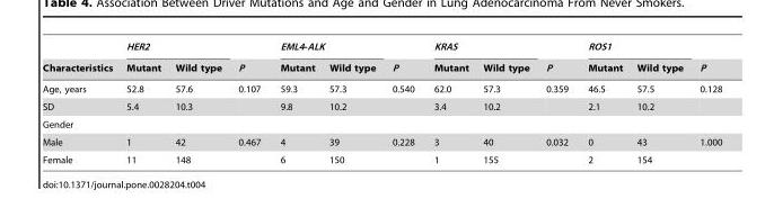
<table><thead><tr><td rowspan="2">Characteristics</td><td colspan="2">HER2</td><td rowspan="2">P</td><td colspan="2">EML4-ALK</td><td rowspan="2">P</td><td colspan="2">KRAS</td><td rowspan="2">P</td><td colspan="2">ROS1</td><td rowspan="2">P</td></tr><tr><td>Mutant</td><td>Wild type</td><td>Mutant</td><td>Wild type</td><td>Mutant</td><td>Wild type</td><td>Mutant</td><td>Wild type</td></tr></thead><tbody><tr><td>Age, years</td><td>52.8</td><td>57.6</td><td>0.107</td><td>59.3</td><td>57.3</td><td>0.540</td><td>62.0</td><td>57.3</td><td>0.359</td><td>46.5</td><td>57.5</td><td>0.128</td></tr><tr><td>SD</td><td>5.4</td><td>10.3</td><td></td><td>9.8</td><td>10.2</td><td></td><td>3.4</td><td>10.2</td><td></td><td>2.1</td><td>10.2</td><td></td></tr><tr><td colspan="13">Gender</td></tr><tr><td>Male</td><td>1</td><td>42</td><td>0.467</td><td>4</td><td>39</td><td>0.228</td><td>3</td><td>40</td><td>0.032</td><td>0</td><td>43</td><td>1.000</td></tr><tr><td>Female</td><td>11</td><td>148</td><td></td><td>6</td><td>150</td><td></td><td>1</td><td>155</td><td></td><td>2</td><td>154</td><td></td></tr></tbody></table>